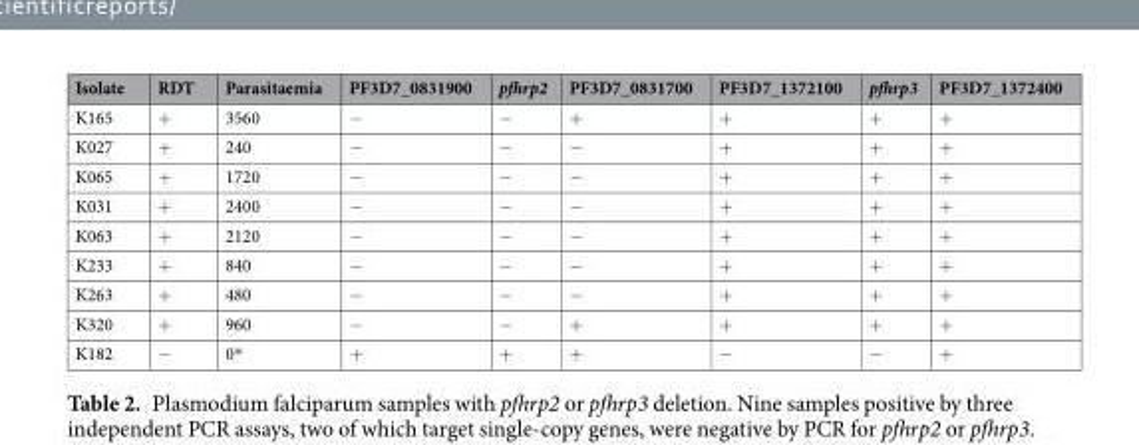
<table><thead><tr><td>Isolate</td><td>RDT</td><td>Parasitaemia</td><td>PF3D7_0831900</td><td>pfhrp2</td><td>PF3D7_0831700</td><td>PF3D7_1372100</td><td>pfhrp3</td><td>PF3D7_1372400</td></tr></thead><tbody><tr><td>K165</td><td>+</td><td>3560</td><td>−</td><td>−</td><td>+</td><td>+</td><td>+</td><td>+</td></tr><tr><td>K027</td><td>+</td><td>240</td><td>−</td><td>−</td><td>−</td><td>+</td><td>+</td><td>+</td></tr><tr><td>K065</td><td>+</td><td>1720</td><td>−</td><td>−</td><td>−</td><td>+</td><td>+</td><td>+</td></tr><tr><td>K031</td><td>+</td><td>2400</td><td>−</td><td>−</td><td>−</td><td>+</td><td>+</td><td>+</td></tr><tr><td>K063</td><td>+</td><td>2120</td><td>−</td><td>−</td><td>−</td><td>+</td><td>+</td><td>+</td></tr><tr><td>K233</td><td>+</td><td>840</td><td>−</td><td>−</td><td>−</td><td>+</td><td>+</td><td>+</td></tr><tr><td>K263</td><td>+</td><td>480</td><td>−</td><td>−</td><td>−</td><td>+</td><td>+</td><td>+</td></tr><tr><td>K320</td><td>+</td><td>960</td><td>−</td><td>−</td><td>+</td><td>+</td><td>+</td><td>+</td></tr><tr><td>K182</td><td>−</td><td>0*</td><td>+</td><td>+</td><td>+</td><td>−</td><td>−</td><td>+</td></tr></tbody></table>